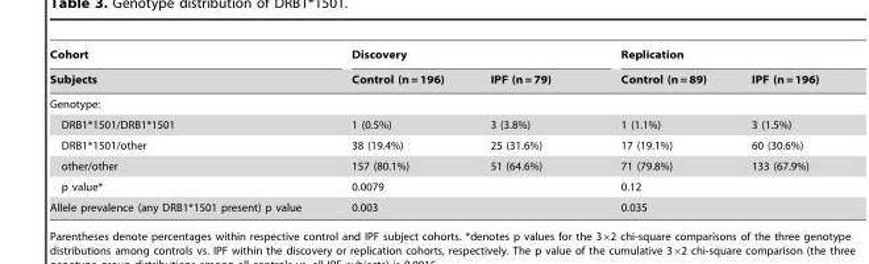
<table><thead><tr><td rowspan="2">Cohort Subjects</td><td colspan="2">Discovery</td><td colspan="2">Replication</td></tr><tr><td>Control (n = 196)</td><td>IPF (n = 79)</td><td>Control (n = 89)</td><td>IPF (n = 196)</td></tr></thead><tbody><tr><td colspan="5">Genotype:</td></tr><tr><td>DRB1*1501/DRB1*1501</td><td>1 (0.5%)</td><td>3 (3.8%)</td><td>1 (1.1%)</td><td>3 (1.5%)</td></tr><tr><td>DRB1*1501/other</td><td>38 (19.4%)</td><td>25 (31.6%)</td><td>17 (19.1%)</td><td>60 (30.6%)</td></tr><tr><td>other/other</td><td>157 (80.1%)</td><td>51 (64.6%)</td><td>71 (79.8%)</td><td>133 (67.9%)</td></tr><tr><td>p value*</td><td colspan="2">0.0079</td><td colspan="2">0.12</td></tr><tr><td>Allele prevalence (any DRB1*1501 present) p value</td><td colspan="2">0.003</td><td colspan="2">0.035</td></tr></tbody></table>